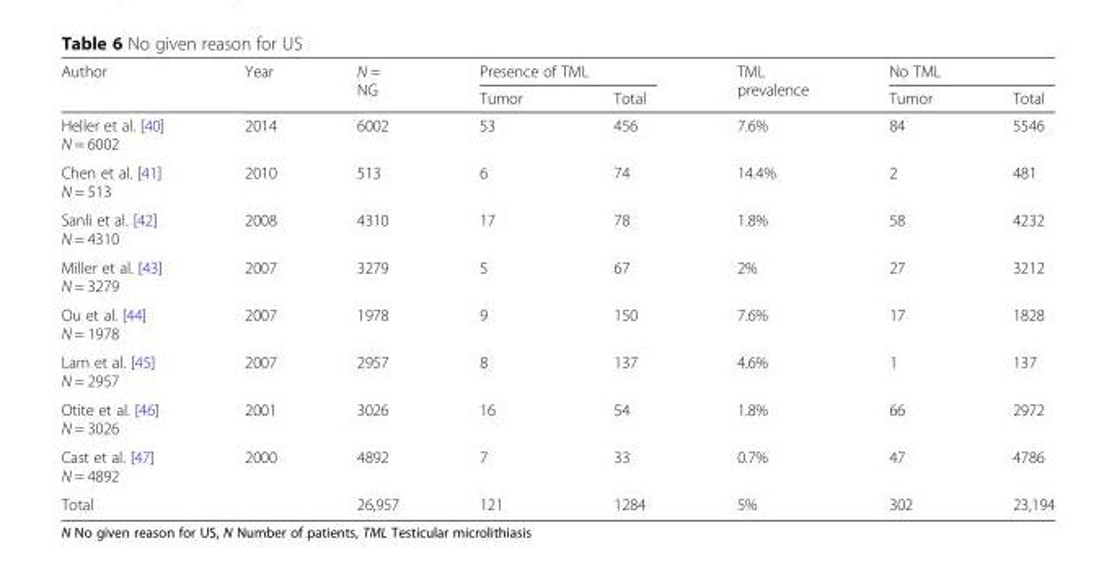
<table><thead><tr><td rowspan="2">Author</td><td rowspan="2">Year</td><td rowspan="2">N = NG</td><td colspan="2">Presence of TML</td><td rowspan="2">TML prevalence</td><td colspan="2">No TML</td></tr><tr><td>Tumor</td><td>Total</td><td>Tumor</td><td>Total</td></tr></thead><tbody><tr><td>Heller et al. [40] N = 6002</td><td>2014</td><td>6002</td><td>53</td><td>456</td><td>7.6%</td><td>84</td><td>5546</td></tr><tr><td>Chen et al. [41] N = 513</td><td>2010</td><td>513</td><td>6</td><td>74</td><td>14.4%</td><td>2</td><td>481</td></tr><tr><td>Sanli et al. [42] N = 4310</td><td>2008</td><td>4310</td><td>17</td><td>78</td><td>1.8%</td><td>58</td><td>4232</td></tr><tr><td>Miller et al. [43] N = 3279</td><td>2007</td><td>3279</td><td>5</td><td>67</td><td>2%</td><td>27</td><td>3212</td></tr><tr><td>Ou et al. [44] N = 1978</td><td>2007</td><td>1978</td><td>9</td><td>150</td><td>7.6%</td><td>17</td><td>1828</td></tr><tr><td>Lam et al. [45] N = 2957</td><td>2007</td><td>2957</td><td>8</td><td>137</td><td>4.6%</td><td>1</td><td>137</td></tr><tr><td>Otite et al. [46] N = 3026</td><td>2001</td><td>3026</td><td>16</td><td>54</td><td>1.8%</td><td>66</td><td>2972</td></tr><tr><td>Cast et al. [47] N = 4892</td><td>2000</td><td>4892</td><td>7</td><td>33</td><td>0.7%</td><td>47</td><td>4786</td></tr><tr><td>Total</td><td></td><td>26,957</td><td>121</td><td>1284</td><td>5%</td><td>302</td><td>23,194</td></tr></tbody></table>